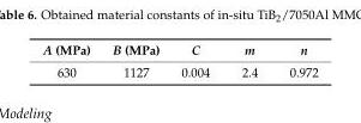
<table><thead><tr><td>A (MPa)</td><td>B (MPa)</td><td>C</td><td>m</td><td>n</td></tr></thead><tbody><tr><td>630</td><td>1127</td><td>0.004</td><td>2.4</td><td>0.972</td></tr></tbody></table>